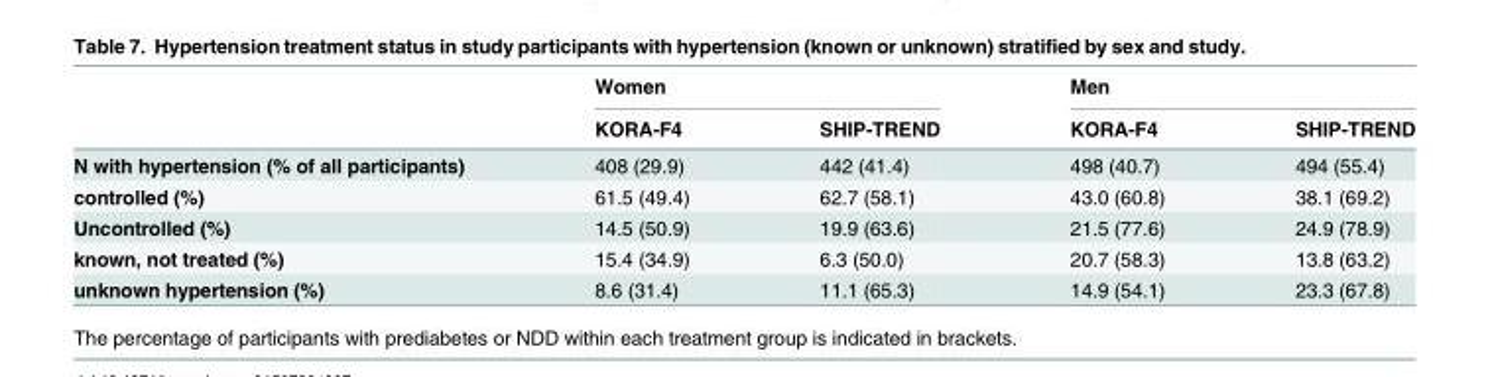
<table><thead><tr><td rowspan="2"></td><td colspan="2">Women</td><td colspan="2">Men</td></tr><tr><td>KORA-F4</td><td>SHIP-TREND</td><td>KORA-F4</td><td>SHIP-TREND</td></tr></thead><tbody><tr><td>N with hypertension (% of all participants)</td><td>408 (29.9)</td><td>442 (41.4)</td><td>498 (40.7)</td><td>494 (55.4)</td></tr><tr><td>controlled (%)</td><td>61.5 (49.4)</td><td>62.7 (58.1)</td><td>43.0 (60.8)</td><td>38.1 (69.2)</td></tr><tr><td>Uncontrolled (%)</td><td>14.5 (50.9)</td><td>19.9 (63.6)</td><td>21.5 (77.6)</td><td>24.9 (78.9)</td></tr><tr><td>known, not treated (%)</td><td>15.4 (34.9)</td><td>6.3 (50.0)</td><td>20.7 (58.3)</td><td>13.8 (63.2)</td></tr><tr><td>unknown hypertension (%)</td><td>8.6 (31.4)</td><td>11.1 (65.3)</td><td>14.9 (54.1)</td><td>23.3 (67.8)</td></tr></tbody></table>